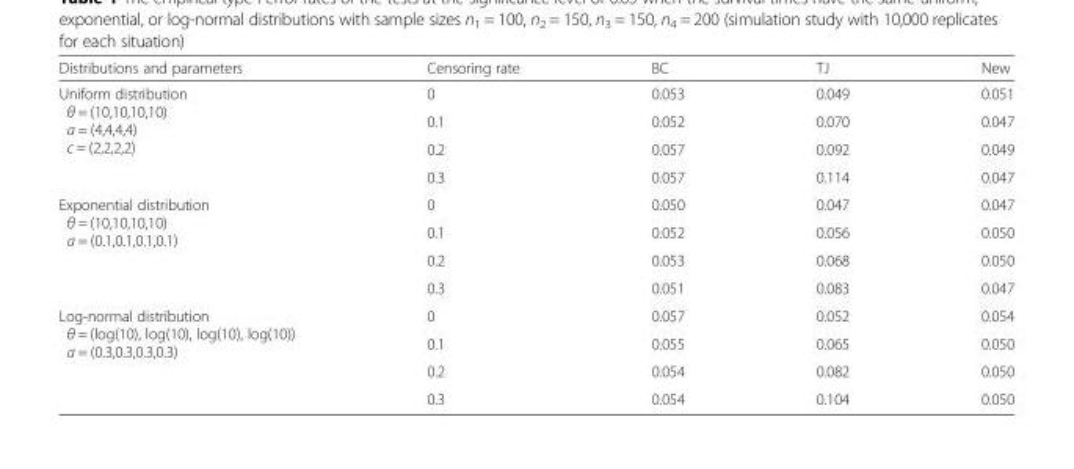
<table><thead><tr><td>Distributions and parameters</td><td>Censoring rate</td><td>BC</td><td>TJ</td><td>New</td></tr></thead><tbody><tr><td rowspan="4">Uniform distribution θ = (10,10,10,10) a = (4,4,4,4) c = (2,2,2,2)</td><td>0</td><td>0.053</td><td>0.049</td><td>0.051</td></tr><tr><td>0.1</td><td>0.052</td><td>0.070</td><td>0.047</td></tr><tr><td>0.2</td><td>0.057</td><td>0.092</td><td>0.049</td></tr><tr><td>0.3</td><td>0.057</td><td>0.114</td><td>0.047</td></tr><tr><td rowspan="4">Exponential distribution θ = (10,10,10,10) a = (0.1,0.1,0.1,0.1)</td><td>0</td><td>0.050</td><td>0.047</td><td>0.047</td></tr><tr><td>0.1</td><td>0.052</td><td>0.056</td><td>0.050</td></tr><tr><td>0.2</td><td>0.053</td><td>0.068</td><td>0.050</td></tr><tr><td>0.3</td><td>0.051</td><td>0.083</td><td>0.047</td></tr><tr><td rowspan="4">Log-normal distribution θ = (log(10), log(10), log(10), log(10)) a = (0.3,0.3,0.3,0.3)</td><td>0</td><td>0.057</td><td>0.052</td><td>0.054</td></tr><tr><td>0.1</td><td>0.055</td><td>0.065</td><td>0.050</td></tr><tr><td>0.2</td><td>0.054</td><td>0.082</td><td>0.050</td></tr><tr><td>0.3</td><td>0.054</td><td>0.104</td><td>0.050</td></tr></tbody></table>